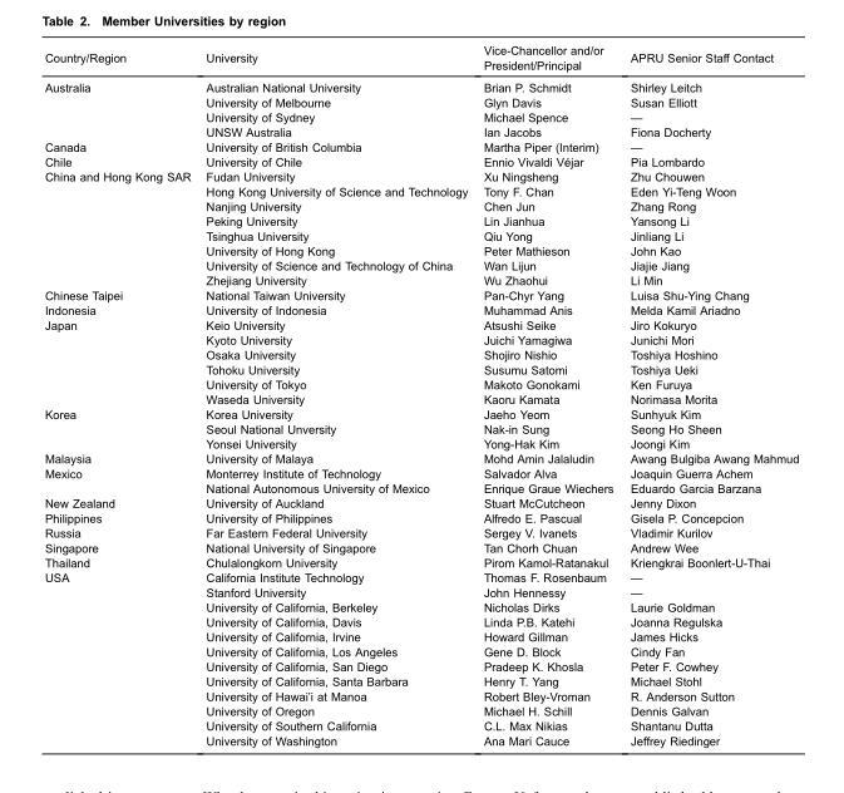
<table><thead><tr><td>Country/Region</td><td>University</td><td>Vice-Chancellor and/or President/Principal</td><td>APRU Senior Staff Contact</td></tr></thead><tbody><tr><td rowspan="4">Australia</td><td>Australian National University</td><td>Brian P. Schmidt</td><td>Shirley Leitch</td></tr><tr><td>University of Melbourne</td><td>Glyn Davis</td><td>Susan Elliott</td></tr><tr><td>University of Sydney</td><td>Michael Spence</td><td>—</td></tr><tr><td>UNSW Australia</td><td>Ian Jacobs</td><td>Fiona Docherty</td></tr><tr><td>Canada</td><td>University of British Columbia</td><td>Martha Piper (Interim)</td><td>—</td></tr><tr><td>Chile</td><td>University of Chile</td><td>Ennio Vivaldi Véjar</td><td>Pia Lombardo</td></tr><tr><td rowspan="8">China and Hong Kong SAR</td><td>Fudan University</td><td>Xu Ningsheng</td><td>Zhu Chouwen</td></tr><tr><td>Hong Kong University of Science and Technology</td><td>Tony F. Chan</td><td>Eden Yi-Teng Woon</td></tr><tr><td>Nanjing University</td><td>Chen Jun</td><td>Zhang Rong</td></tr><tr><td>Peking University</td><td>Lin Jianhua</td><td>Yansong Li</td></tr><tr><td>Tsinghua University</td><td>Qiu Yong</td><td>Jinliang Li</td></tr><tr><td>University of Hong Kong</td><td>Peter Mathieson</td><td>John Kao</td></tr><tr><td>University of Science and Technology of China</td><td>Wan Lijun</td><td>Jiajie Jiang</td></tr><tr><td>Zhejiang University</td><td>Wu Zhaohui</td><td>Li Min</td></tr><tr><td>Chinese Taipei</td><td>National Taiwan University</td><td>Pan-Chyr Yang</td><td>Luisa Shu-Ying Chang</td></tr><tr><td>Indonesia</td><td>University of Indonesia</td><td>Muhammad Anis</td><td>Melda Kamil Ariadno</td></tr><tr><td rowspan="6">Japan</td><td>Keio University</td><td>Atsushi Seike</td><td>Jiro Kokuryo</td></tr><tr><td>Kyoto University</td><td>Juichi Yamagiwa</td><td>Junichi Mori</td></tr><tr><td>Osaka University</td><td>Shojiro Nishio</td><td>Toshiya Hoshino</td></tr><tr><td>Tohoku University</td><td>Susumu Satomi</td><td>Toshiya Ueki</td></tr><tr><td>University of Tokyo</td><td>Makoto Gonokami</td><td>Ken Furuya</td></tr><tr><td>Waseda University</td><td>Kaoru Kamata</td><td>Norimasa Morita</td></tr><tr><td rowspan="3">Korea</td><td>Korea University</td><td>Jaeho Yeom</td><td>Sunhyuk Kim</td></tr><tr><td>Seoul National Unversity</td><td>Nak-in Sung</td><td>Seong Ho Sheen</td></tr><tr><td>Yonsei University</td><td>Yong-Hak Kim</td><td>Joongi Kim</td></tr><tr><td>Malaysia</td><td>University of Malaya</td><td>Mohd Amin Jalaludin</td><td>Awang Bulgiba Awang Mahmud</td></tr><tr><td rowspan="2">Mexico</td><td>Monterrey Institute of Technology</td><td>Salvador Alva</td><td>Joaquin Guerra Achem</td></tr><tr><td>National Autonomous University of Mexico</td><td>Enrique Graue Wiechers</td><td>Eduardo Garcia Barzana</td></tr><tr><td>New Zealand</td><td>University of Auckland</td><td>Stuart McCutcheon</td><td>Jenny Dixon</td></tr><tr><td>Philippines</td><td>University of Philippines</td><td>Alfredo E. Pascual</td><td>Gisela P. Concepcion</td></tr><tr><td>Russia</td><td>Far Eastern Federal University</td><td>Sergey V. Ivanets</td><td>Vladimir Kurilov</td></tr><tr><td>Singapore</td><td>National University of Singapore</td><td>Tan Chorh Chuan</td><td>Andrew Wee</td></tr><tr><td>Thailand</td><td>Chulalongkorn University</td><td>Pirom Kamol-Ratanakul</td><td>Kriengkrai Boonlert-U-Thai</td></tr><tr><td rowspan="12">USA</td><td>California Institute Technology</td><td>Thomas F. Rosenbaum</td><td>—</td></tr><tr><td>Stanford University</td><td>John Hennessy</td><td>—</td></tr><tr><td>University of California, Berkeley</td><td>Nicholas Dirks</td><td>Laurie Goldman</td></tr><tr><td>University of California, Davis</td><td>Linda P.B. Katehi</td><td>Joanna Regulska</td></tr><tr><td>University of California, Irvine</td><td>Howard Gillman</td><td>James Hicks</td></tr><tr><td>University of California, Los Angeles</td><td>Gene D. Block</td><td>Cindy Fan</td></tr><tr><td>University of California, San Diego</td><td>Pradeep K. Khosla</td><td>Peter F. Cowhey</td></tr><tr><td>University of California, Santa Barbara</td><td>Henry T. Yang</td><td>Michael Stohl</td></tr><tr><td>University of Hawai’i at Manoa</td><td>Robert Bley-Vroman</td><td>R. Anderson Sutton</td></tr><tr><td>University of Oregon</td><td>Michael H. Schill</td><td>Dennis Galvan</td></tr><tr><td>University of Southern California</td><td>C.L. Max Nikias</td><td>Shantanu Dutta</td></tr><tr><td>University of Washington</td><td>Ana Mari Cauce</td><td>Jeffrey Riedinger</td></tr></tbody></table>